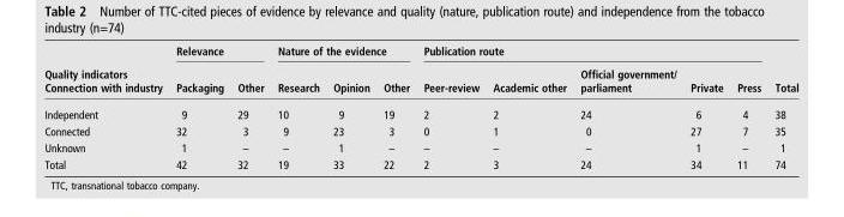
<table><thead><tr><td rowspan="2">Quality indicators Connection with industry</td><td colspan="2">Relevance</td><td colspan="3">Nature of the evidence</td><td colspan="5">Publication route</td><td rowspan="2">Total</td></tr><tr><td>Packaging</td><td>Other</td><td>Research</td><td>Opinion</td><td>Other</td><td>Peer-review</td><td>Academic other</td><td>Official government/ parliament</td><td>Private</td><td>Press</td></tr></thead><tbody><tr><td>Independent</td><td>9</td><td>29</td><td>10</td><td>9</td><td>19</td><td>2</td><td>2</td><td>24</td><td>6</td><td>4</td><td>38</td></tr><tr><td>Connected</td><td>32</td><td>3</td><td>9</td><td>23</td><td>3</td><td>0</td><td>1</td><td>0</td><td>27</td><td>7</td><td>35</td></tr><tr><td>Unknown</td><td>1</td><td>–</td><td>–</td><td>1</td><td>–</td><td>–</td><td>–</td><td>–</td><td>1</td><td>–</td><td>1</td></tr><tr><td>Total</td><td>42</td><td>32</td><td>19</td><td>33</td><td>22</td><td>2</td><td>3</td><td>24</td><td>34</td><td>11</td><td>74</td></tr></tbody></table>